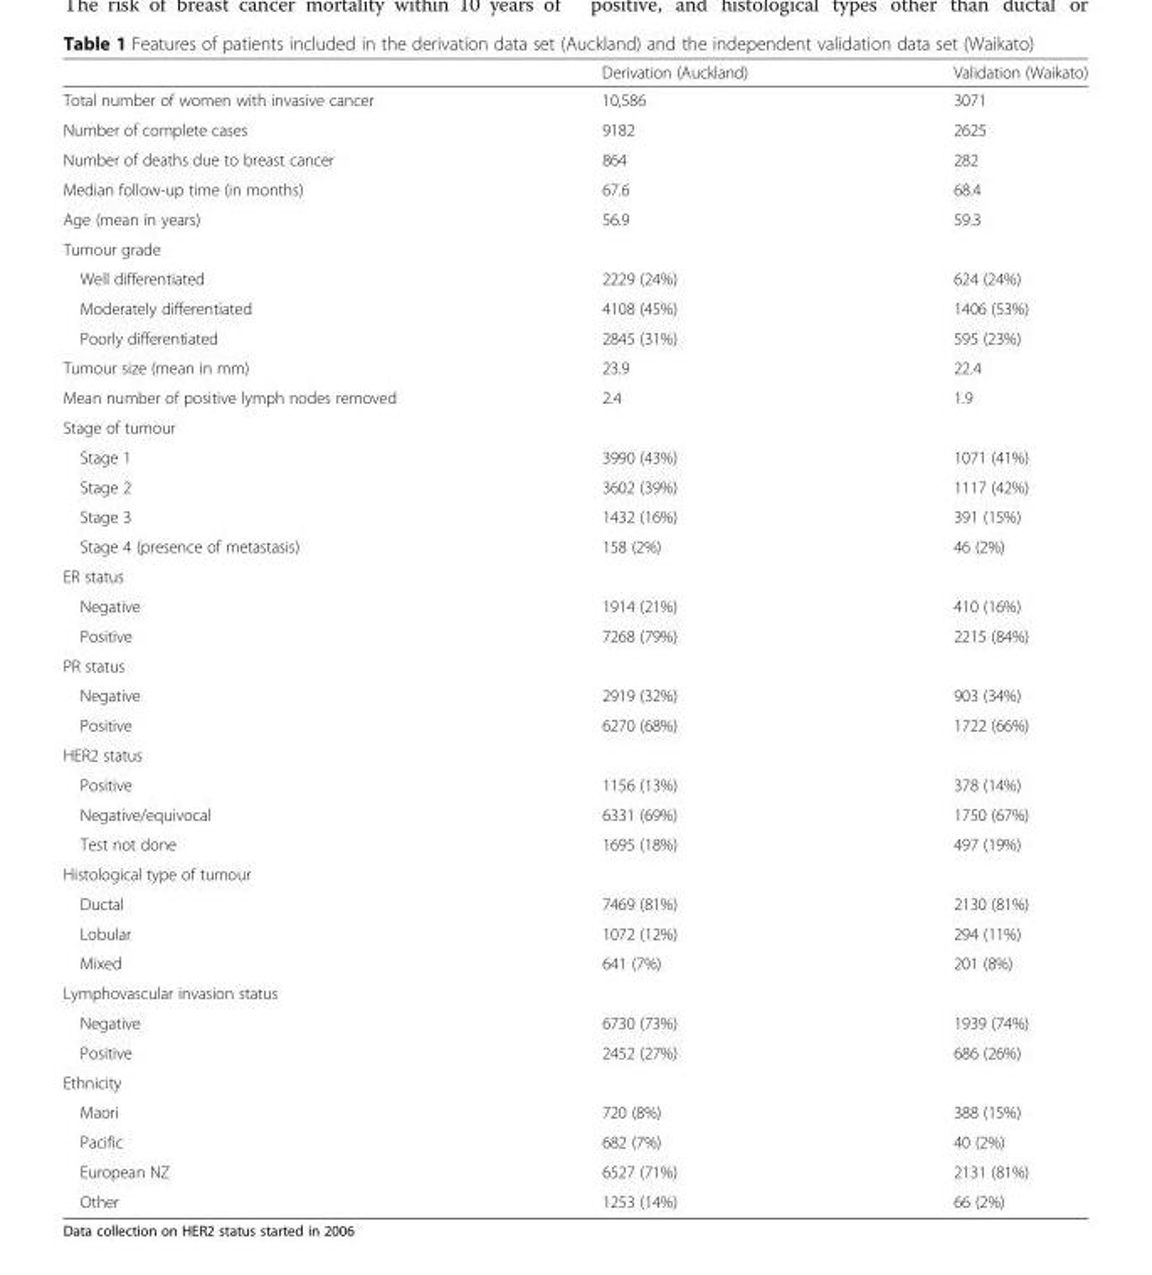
<table><thead><tr><td></td><td>Derivation (Auckland)</td><td>Validation (Waikato)</td></tr></thead><tbody><tr><td>Total number of women with invasive cancer</td><td>10,586</td><td>3071</td></tr><tr><td>Number of complete cases</td><td>9182</td><td>2625</td></tr><tr><td>Number of deaths due to breast cancer</td><td>864</td><td>282</td></tr><tr><td>Median follow-up time (in months)</td><td>67.6</td><td>68.4</td></tr><tr><td>Age (mean in years)</td><td>56.9</td><td>59.3</td></tr><tr><td colspan="3">Tumour grade</td></tr><tr><td>Well differentiated</td><td>2229 (24%)</td><td>624 (24%)</td></tr><tr><td>Moderately differentiated</td><td>4108 (45%)</td><td>1406 (53%)</td></tr><tr><td>Poorly differentiated</td><td>2845 (31%)</td><td>595 (23%)</td></tr><tr><td>Tumour size (mean in mm)</td><td>23.9</td><td>22.4</td></tr><tr><td>Mean number of positive lymph nodes removed</td><td>2.4</td><td>1.9</td></tr><tr><td colspan="3">Stage of tumour</td></tr><tr><td>Stage 1</td><td>3990 (43%)</td><td>1071 (41%)</td></tr><tr><td>Stage 2</td><td>3602 (39%)</td><td>1117 (42%)</td></tr><tr><td>Stage 3</td><td>1432 (16%)</td><td>391 (15%)</td></tr><tr><td>Stage 4 (presence of metastasis)</td><td>158 (2%)</td><td>46 (2%)</td></tr><tr><td colspan="3">ER status</td></tr><tr><td>Negative</td><td>1914 (21%)</td><td>410 (16%)</td></tr><tr><td>Positive</td><td>7268 (79%)</td><td>2215 (84%)</td></tr><tr><td colspan="3">PR status</td></tr><tr><td>Negative</td><td>2919 (32%)</td><td>903 (34%)</td></tr><tr><td>Positive</td><td>6270 (68%)</td><td>1722 (66%)</td></tr><tr><td colspan="3">HER2 status</td></tr><tr><td>Positive</td><td>1156 (13%)</td><td>378 (14%)</td></tr><tr><td>Negative/equivocal</td><td>6331 (69%)</td><td>1750 (67%)</td></tr><tr><td>Test not done</td><td>1695 (18%)</td><td>497 (19%)</td></tr><tr><td colspan="3">Histological type of tumour</td></tr><tr><td>Ductal</td><td>7469 (81%)</td><td>2130 (81%)</td></tr><tr><td>Lobular</td><td>1072 (12%)</td><td>294 (11%)</td></tr><tr><td>Mixed</td><td>641 (7%)</td><td>201 (8%)</td></tr><tr><td colspan="3">Lymphovascular invasion status</td></tr><tr><td>Negative</td><td>6730 (73%)</td><td>1939 (74%)</td></tr><tr><td>Positive</td><td>2452 (27%)</td><td>686 (26%)</td></tr><tr><td colspan="3">Ethnicity</td></tr><tr><td>Maori</td><td>720 (8%)</td><td>388 (15%)</td></tr><tr><td>Pacific</td><td>682 (7%)</td><td>40 (2%)</td></tr><tr><td>European NZ</td><td>6527 (71%)</td><td>2131 (81%)</td></tr><tr><td>Other</td><td>1253 (14%)</td><td>66 (2%)</td></tr></tbody></table>